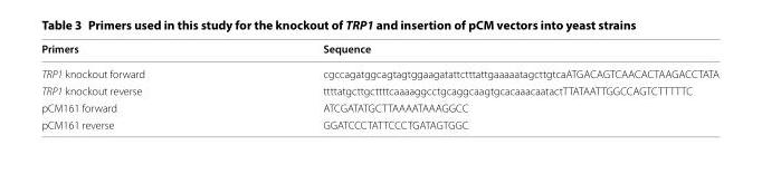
<table><thead><tr><td>Primers</td><td>Sequence</td></tr></thead><tbody><tr><td>TRP1 knockout forward</td><td>cgccagatggcagtagtggaagatattctttattgaaaaatagcttgtcaATGACAGTCAACACTAAGACCTATA</td></tr><tr><td>TRP1 knockout reverse</td><td>ttttatgcttgcttttcaaaaggcctgcaggcaagtgcacaaacaatactTTATAATTGGCCAGTCTTTTTC</td></tr><tr><td>pCM161 forward</td><td>ATCGATATGCTTAAAATAAAGGCC</td></tr><tr><td>pCM161 reverse</td><td>GGATCCCTATTCCCTGATAGTGGC</td></tr></tbody></table>